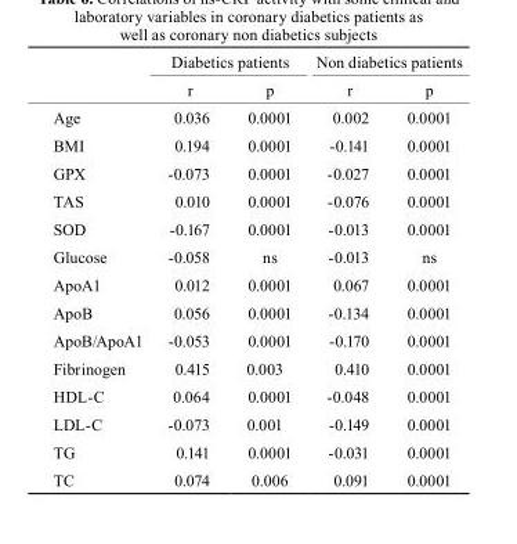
<table><thead><tr><td rowspan="2"></td><td colspan="2">Diabetics patients</td><td colspan="2">Non diabetics patients</td></tr><tr><td>r</td><td>p</td><td>r</td><td>p</td></tr></thead><tbody><tr><td>Age</td><td>0.036</td><td>0.0001</td><td>0.002</td><td>0.0001</td></tr><tr><td>BMI</td><td>0.194</td><td>0.0001</td><td>-0.141</td><td>0.0001</td></tr><tr><td>GPX</td><td>-0.073</td><td>0.0001</td><td>-0.027</td><td>0.0001</td></tr><tr><td>TAS</td><td>0.010</td><td>0.0001</td><td>-0.076</td><td>0.0001</td></tr><tr><td>SOD</td><td>-0.167</td><td>0.0001</td><td>-0.013</td><td>0.0001</td></tr><tr><td>Glucose</td><td>-0.058</td><td>ns</td><td>-0.013</td><td>ns</td></tr><tr><td>ApoA1</td><td>0.012</td><td>0.0001</td><td>0.067</td><td>0.0001</td></tr><tr><td>ApoB</td><td>0.056</td><td>0.0001</td><td>-0.134</td><td>0.0001</td></tr><tr><td>ApoB/ApoA1</td><td>-0.053</td><td>0.0001</td><td>-0.170</td><td>0.0001</td></tr><tr><td>Fibrinogen</td><td>0.415</td><td>0.003</td><td>0.410</td><td>0.0001</td></tr><tr><td>HDL-C</td><td>0.064</td><td>0.0001</td><td>-0.048</td><td>0.0001</td></tr><tr><td>LDL-C</td><td>-0.073</td><td>0.001</td><td>-0.149</td><td>0.0001</td></tr><tr><td>TG</td><td>0.141</td><td>0.0001</td><td>-0.031</td><td>0.0001</td></tr><tr><td>TC</td><td>0.074</td><td>0.006</td><td>0.091</td><td>0.0001</td></tr></tbody></table>